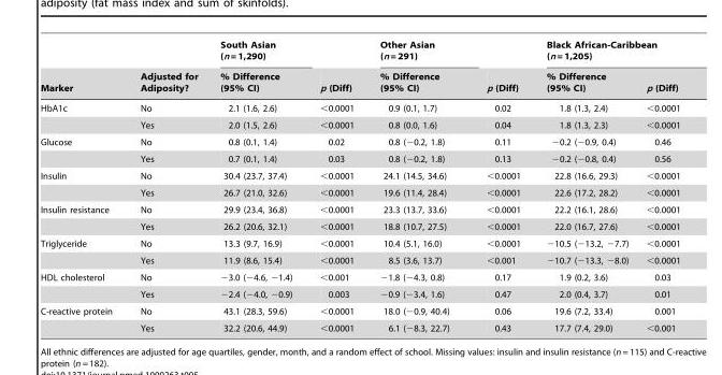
<table><thead><tr><td rowspan="2">Marker</td><td rowspan="2">Adjusted for Adiposity?</td><td rowspan="2">South Asian (n = 1,290) % Difference (95% CI)</td><td rowspan="2">p (Diff)</td><td rowspan="2">Other Asian (n = 291) % Difference (95% CI)</td><td rowspan="2">p (Diff)</td><td colspan="2">Black African-Caribbean (n = 1,205)</td></tr><tr><td>% Difference (95% CI)</td><td>p (Diff)</td></tr></thead><tbody><tr><td rowspan="2">HbA1c</td><td>No</td><td>2.1 (1.6, 2.6)</td><td>&lt;0.0001</td><td>0.9 (0.1, 1.7)</td><td>0.02</td><td>1.8 (1.3, 2.4)</td><td>&lt;0.0001</td></tr><tr><td>Yes</td><td>2.0 (1.5, 2.6)</td><td>&lt;0.0001</td><td>0.8 (0.0, 1.6)</td><td>0.04</td><td>1.8 (1.3, 2.3)</td><td>&lt;0.0001</td></tr><tr><td rowspan="2">Glucose</td><td>No</td><td>0.8 (0.1, 1.4)</td><td>0.02</td><td>0.8 (−0.2, 1.8)</td><td>0.11</td><td>−0.2 (−0.9, 0.4)</td><td>0.46</td></tr><tr><td>Yes</td><td>0.7 (0.1, 1.4)</td><td>0.03</td><td>0.8 (−0.2, 1.8)</td><td>0.13</td><td>−0.2 (−0.8, 0.4)</td><td>0.56</td></tr><tr><td rowspan="2">Insulin</td><td>No</td><td>30.4 (23.7, 37.4)</td><td>&lt;0.0001</td><td>24.1 (14.5, 34.6)</td><td>&lt;0.0001</td><td>22.8 (16.6, 29.3)</td><td>&lt;0.0001</td></tr><tr><td>Yes</td><td>26.7 (21.0, 32.6)</td><td>&lt;0.0001</td><td>19.6 (11.4, 28.4)</td><td>&lt;0.0001</td><td>22.6 (17.2, 28.2)</td><td>&lt;0.0001</td></tr><tr><td rowspan="2">Insulin resistance</td><td>No</td><td>29.9 (23.4, 36.8)</td><td>&lt;0.0001</td><td>23.3 (13.7, 33.6)</td><td>&lt;0.0001</td><td>22.2 (16.1, 28.6)</td><td>&lt;0.0001</td></tr><tr><td>Yes</td><td>26.2 (20.6, 32.1)</td><td>&lt;0.0001</td><td>18.8 (10.7, 27.5)</td><td>&lt;0.0001</td><td>22.0 (16.7, 27.6)</td><td>&lt;0.0001</td></tr><tr><td rowspan="2">Triglyceride</td><td>No</td><td>13.3 (9.7, 16.9)</td><td>&lt;0.0001</td><td>10.4 (5.1, 16.0)</td><td>&lt;0.0001</td><td>−10.5 (−13.2, −7.7)</td><td>&lt;0.0001</td></tr><tr><td>Yes</td><td>11.9 (8.6, 15.4)</td><td>&lt;0.0001</td><td>8.5 (3.6, 13.7)</td><td>&lt;0.001</td><td>−10.7 (−13.3, −8.0)</td><td>&lt;0.0001</td></tr><tr><td rowspan="2">HDL cholesterol</td><td>No</td><td>−3.0 (−4.6, −1.4)</td><td>&lt;0.001</td><td>−1.8 (−4.3, 0.8)</td><td>0.17</td><td>1.9 (0.2, 3.6)</td><td>0.03</td></tr><tr><td>Yes</td><td>−2.4 (−4.0, −0.9)</td><td>0.003</td><td>−0.9 (−3.4, 1.6)</td><td>0.47</td><td>2.0 (0.4, 3.7)</td><td>0.01</td></tr><tr><td rowspan="2">C-reactive protein</td><td>No</td><td>43.1 (28.3, 59.6)</td><td>&lt;0.0001</td><td>18.0 (−0.9, 40.4)</td><td>0.06</td><td>19.6 (7.2, 33.4)</td><td>0.001</td></tr><tr><td>Yes</td><td>32.2 (20.6, 44.9)</td><td>&lt;0.0001</td><td>6.1 (−8.3, 22.7)</td><td>0.43</td><td>17.7 (7.4, 29.0)</td><td>&lt;0.001</td></tr></tbody></table>